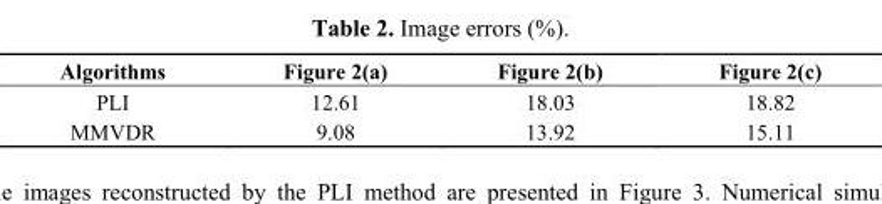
<table><thead><tr><td>Algorithms</td><td>Figure 2(a)</td><td>Figure 2(b)</td><td>Figure 2(c)</td></tr></thead><tbody><tr><td>PLI</td><td>12.61</td><td>18.03</td><td>18.82</td></tr><tr><td>MMVDR</td><td>9.08</td><td>13.92</td><td>15.11</td></tr></tbody></table>